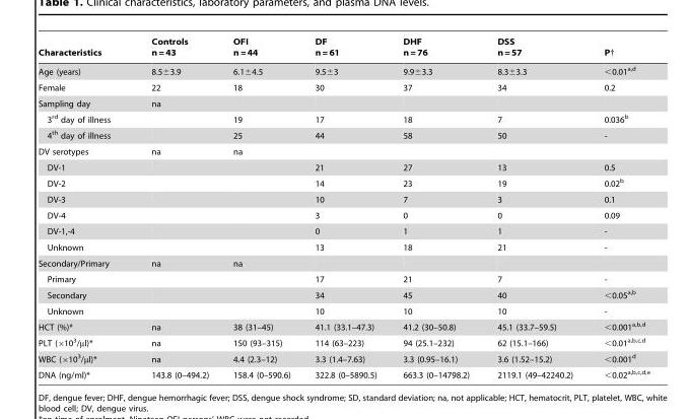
<table><thead><tr><td>Characteristics</td><td>Controls n = 43</td><td>OFI n = 44</td><td>DF n = 61</td><td>DHF n = 76</td><td>DSS n = 57</td><td>P†</td></tr></thead><tbody><tr><td>Age (years)</td><td>8.5±3.9</td><td>6.1±4.5</td><td>9.5±3</td><td>9.9±3.3</td><td>8.3±3.3</td><td>&lt;0.01<sup>a,</sup>d</td></tr><tr><td>Female</td><td>22</td><td>18</td><td>30</td><td>37</td><td>34</td><td>0.2</td></tr><tr><td>Sampling day</td><td>na</td><td></td><td></td><td></td><td></td><td></td></tr><tr><td>3<sup>rd</sup> day of illness</td><td></td><td>19</td><td>17</td><td>18</td><td>7</td><td>0.036<sup>b</sup></td></tr><tr><td>4<sup>th</sup> day of illness</td><td></td><td>25</td><td>44</td><td>58</td><td>50</td><td>-</td></tr><tr><td>DV serotypes</td><td>na</td><td>na</td><td></td><td></td><td></td><td></td></tr><tr><td>DV-1</td><td></td><td></td><td>21</td><td>27</td><td>13</td><td>0.5</td></tr><tr><td>DV-2</td><td></td><td></td><td>14</td><td>23</td><td>19</td><td>0.02<sup>b</sup></td></tr><tr><td>DV-3</td><td></td><td></td><td>10</td><td>7</td><td>3</td><td>0.1</td></tr><tr><td>DV-4</td><td></td><td></td><td>3</td><td>0</td><td>0</td><td>0.09</td></tr><tr><td>DV-1,-4</td><td></td><td></td><td>0</td><td>1</td><td>1</td><td>-</td></tr><tr><td>Unknown</td><td></td><td></td><td>13</td><td>18</td><td>21</td><td>-</td></tr><tr><td>Secondary/Primary</td><td>na</td><td>na</td><td></td><td></td><td></td><td></td></tr><tr><td>Primary</td><td></td><td></td><td>17</td><td>21</td><td>7</td><td>-</td></tr><tr><td>Secondary</td><td></td><td></td><td>34</td><td>45</td><td>40</td><td>&lt;0.05<sup>a,</sup>b</td></tr><tr><td>Unknown</td><td></td><td></td><td>10</td><td>10</td><td>10</td><td>-</td></tr><tr><td>HCT (%)*</td><td>na</td><td>38 (31–45)</td><td>41.1 (33.1–47.3)</td><td>41.2 (30–50.8)</td><td>45.1 (33.7–59.5)</td><td>&lt;0.001<sup>a,</sup>b<sup>,</sup>d</td></tr><tr><td>PLT (×10<sup>3</sup>/µl)*</td><td>na</td><td>150 (93–315)</td><td>114 (63–223)</td><td>94 (25.1–232)</td><td>62 (15.1–166)</td><td>&lt;0.01<sup>a,</sup>b<sup>,</sup>c<sup>,</sup>d</td></tr><tr><td>WBC (×10<sup>3</sup>/µl)*</td><td>na</td><td>4.4 (2.3–12)</td><td>3.3 (1.4–7.63)</td><td>3.3 (0.95–16.1)</td><td>3.6 (1.52–15.2)</td><td>&lt;0.001<sup>d</sup></td></tr><tr><td>DNA (ng/ml)*</td><td>143.8 (0–494.2)</td><td>158.4 (0–590.6)</td><td>322.8 (0–5890.5)</td><td>663.3 (0–14798.2)</td><td>2119.1 (49–42240.2)</td><td>&lt;0.02<sup>a,</sup>b<sup>,</sup>c<sup>,</sup>d<sup>,</sup>e</td></tr></tbody></table>